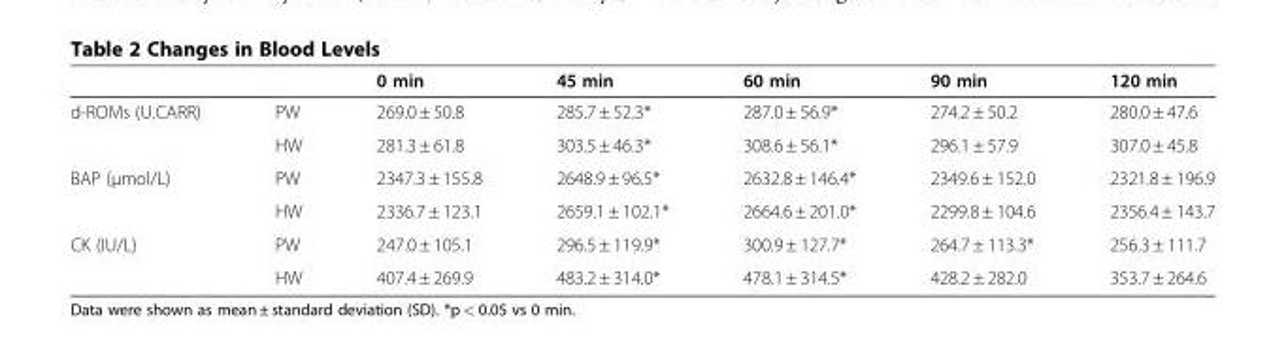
<table><thead><tr><td></td><td></td><td>0 min</td><td>45 min</td><td>60 min</td><td>90 min</td><td>120 min</td></tr></thead><tbody><tr><td rowspan="2">d-ROMs (U.CARR)</td><td>PW</td><td>269.0 ± 50.8</td><td>285.7 ± 52.3*</td><td>287.0 ± 56.9*</td><td>274.2 ± 50.2</td><td>280.0 ± 47.6</td></tr><tr><td>HW</td><td>281.3 ± 61.8</td><td>303.5 ± 46.3*</td><td>308.6 ± 56.1*</td><td>296.1 ± 57.9</td><td>307.0 ± 45.8</td></tr><tr><td rowspan="2">BAP (μmol/L)</td><td>PW</td><td>2347.3 ± 155.8</td><td>2648.9 ± 96.5*</td><td>2632.8 ± 146.4*</td><td>2349.6 ± 152.0</td><td>2321.8 ± 196.9</td></tr><tr><td>HW</td><td>2336.7 ± 123.1</td><td>2659.1 ± 102.1*</td><td>2664.6 ± 201.0*</td><td>2299.8 ± 104.6</td><td>2356.4 ± 143.7</td></tr><tr><td rowspan="2">CK (IU/L)</td><td>PW</td><td>247.0 ± 105.1</td><td>296.5 ± 119.9*</td><td>300.9 ± 127.7*</td><td>264.7 ± 113.3*</td><td>256.3 ± 111.7</td></tr><tr><td>HW</td><td>407.4 ± 269.9</td><td>483.2 ± 314.0*</td><td>478.1 ± 314.5*</td><td>428.2 ± 282.0</td><td>353.7 ± 264.6</td></tr></tbody></table>